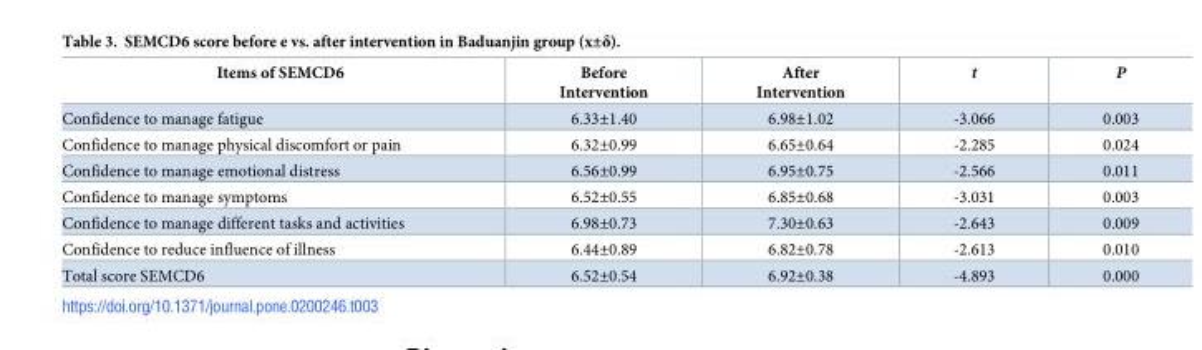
<table><thead><tr><td>Items of SEMCD6</td><td>Before Intervention</td><td>After Intervention</td><td>t</td><td>P</td></tr></thead><tbody><tr><td>Confidence to manage fatigue</td><td>6.33±1.40</td><td>6.98±1.02</td><td>-3.066</td><td>0.003</td></tr><tr><td>Confidence to manage physical discomfort or pain</td><td>6.32±0.99</td><td>6.65±0.64</td><td>-2.285</td><td>0.024</td></tr><tr><td>Confidence to manage emotional distress</td><td>6.56±0.99</td><td>6.95±0.75</td><td>-2.566</td><td>0.011</td></tr><tr><td>Confidence to manage symptoms</td><td>6.52±0.55</td><td>6.85±0.68</td><td>-3.031</td><td>0.003</td></tr><tr><td>Confidence to manage different tasks and activities</td><td>6.98±0.73</td><td>7.30±0.63</td><td>-2.643</td><td>0.009</td></tr><tr><td>Confidence to reduce influence of illness</td><td>6.44±0.89</td><td>6.82±0.78</td><td>-2.613</td><td>0.010</td></tr><tr><td>Total score SEMCD6</td><td>6.52±0.54</td><td>6.92±0.38</td><td>-4.893</td><td>0.000</td></tr></tbody></table>